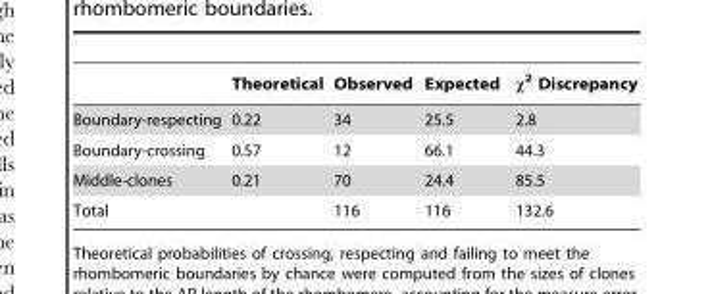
<table><thead><tr><td></td><td>Theoretical</td><td>Observed</td><td>Expected</td><td>χ<sup>2</sup> Discrepancy</td></tr></thead><tbody><tr><td>Boundary-respecting</td><td>0.22</td><td>34</td><td>25.5</td><td>2.8</td></tr><tr><td>Boundary-crossing</td><td>0.57</td><td>12</td><td>66.1</td><td>44.3</td></tr><tr><td>Middle-clones</td><td>0.21</td><td>70</td><td>24.4</td><td>85.5</td></tr><tr><td>Total</td><td></td><td>116</td><td>116</td><td>132.6</td></tr></tbody></table>